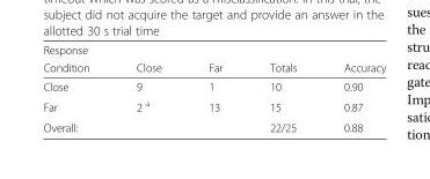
<table><thead><tr><td colspan="5">Response</td></tr><tr><td>Condition</td><td>Close</td><td>Far</td><td>Totals</td><td>Accuracy</td></tr></thead><tbody><tr><td>Close</td><td>9</td><td>1</td><td>10</td><td>0.90</td></tr><tr><td>Far</td><td>2 <sup>a</sup></td><td>13</td><td>15</td><td>0.87</td></tr><tr><td colspan="3">Overall:</td><td>22/25</td><td>0.88</td></tr></tbody></table>